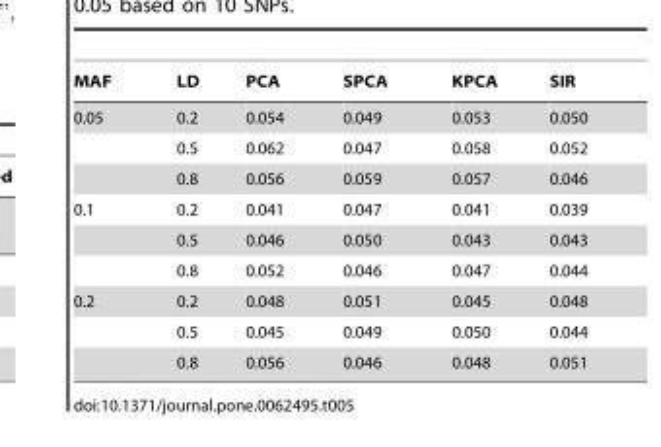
<table><thead><tr><td>MAF</td><td>LD</td><td>PCA</td><td>SPCA</td><td>KPCA</td><td>SIR</td></tr></thead><tbody><tr><td rowspan="3">0.05</td><td>0.2</td><td>0.054</td><td>0.049</td><td>0.053</td><td>0.050</td></tr><tr><td>0.5</td><td>0.062</td><td>0.047</td><td>0.058</td><td>0.052</td></tr><tr><td>0.8</td><td>0.056</td><td>0.059</td><td>0.057</td><td>0.046</td></tr><tr><td rowspan="3">0.1</td><td>0.2</td><td>0.041</td><td>0.047</td><td>0.041</td><td>0.039</td></tr><tr><td>0.5</td><td>0.046</td><td>0.050</td><td>0.043</td><td>0.043</td></tr><tr><td>0.8</td><td>0.052</td><td>0.046</td><td>0.047</td><td>0.044</td></tr><tr><td rowspan="3">0.2</td><td>0.2</td><td>0.048</td><td>0.051</td><td>0.045</td><td>0.048</td></tr><tr><td>0.5</td><td>0.045</td><td>0.049</td><td>0.050</td><td>0.044</td></tr><tr><td>0.8</td><td>0.056</td><td>0.046</td><td>0.048</td><td>0.051</td></tr></tbody></table>